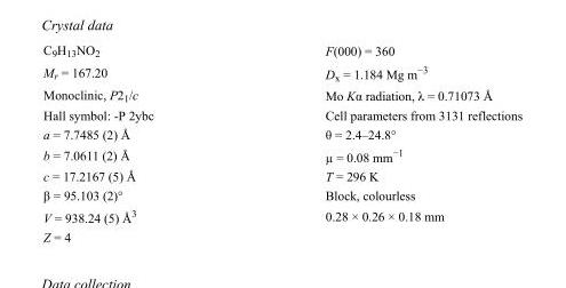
<table><tbody><tr><td>C<sub>9</sub>H<sub>13</sub>NO<sub>2</sub></td><td>F(000) = 360</td></tr><tr><td>M<sub>r</sub> = 167.20</td><td>D<sub>x</sub> = 1.184 Mg m<sup>−3</sup></td></tr><tr><td>Monoclinic, P2<sub>1</sub>/c</td><td>Mo Kα radiation, λ = 0.71073 Å</td></tr><tr><td>Hall symbol: -P 2ybc</td><td>Cell parameters from 3131 reflections</td></tr><tr><td>a = 7.7485 (2) Å</td><td>θ = 2.4–24.8°</td></tr><tr><td>b = 7.0611 (2) Å</td><td>µ = 0.08 mm<sup>−1</sup></td></tr><tr><td>c = 17.2167 (5) Å</td><td>T = 296 K</td></tr><tr><td>β = 95.103 (2)°</td><td>Block, colourless</td></tr><tr><td>V = 938.24 (5) Å<sup>3</sup></td><td>0.28 × 0.26 × 0.18 mm</td></tr><tr><td>Z = 4</td><td></td></tr></tbody></table>